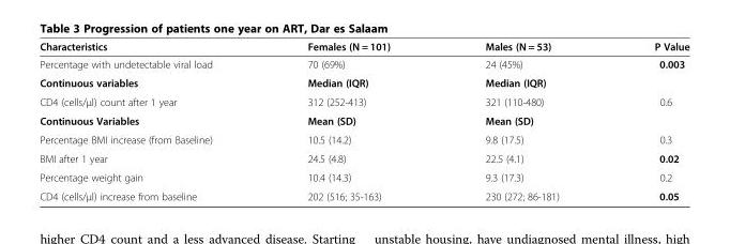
<table><thead><tr><td>Characteristics</td><td>Females (N = 101)</td><td>Males (N = 53)</td><td>P Value</td></tr></thead><tbody><tr><td>Percentage with undetectable viral load</td><td>70 (69%)</td><td>24 (45%)</td><td>0.003</td></tr><tr><td>Continuous variables</td><td>Median (IQR)</td><td>Median (IQR)</td><td></td></tr><tr><td>CD4 (cells/μl) count after 1 year</td><td>312 (252-413)</td><td>321 (110-480)</td><td>0.6</td></tr><tr><td>Continuous Variables</td><td>Mean (SD)</td><td>Mean (SD)</td><td></td></tr><tr><td>Percentage BMI increase (from Baseline)</td><td>10.5 (14.2)</td><td>9.8 (17.5)</td><td>0.3</td></tr><tr><td>BMI after 1 year</td><td>24.5 (4.8)</td><td>22.5 (4.1)</td><td>0.02</td></tr><tr><td>Percentage weight gain</td><td>10.4 (14.3)</td><td>9.3 (17.3)</td><td>0.2</td></tr><tr><td>CD4 (cells/μl) increase from baseline</td><td>202 (516; 35-163)</td><td>230 (272; 86-181)</td><td>0.05</td></tr></tbody></table>